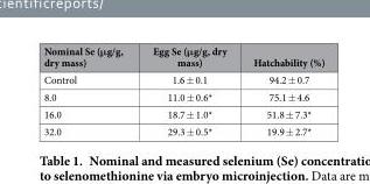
<table><thead><tr><td>Nominal Se (μg/g, dry mass)</td><td>Egg Se (μg/g, dry mass)</td><td>Hatchability (%)</td></tr></thead><tbody><tr><td>Control</td><td>1.6 ± 0.1</td><td>94.2 ± 0.7</td></tr><tr><td>8.0</td><td>11.0 ± 0.6*</td><td>75.1 ± 4.6</td></tr><tr><td>16.0</td><td>18.7 ± 1.0*</td><td>51.8 ± 7.3*</td></tr><tr><td>32.0</td><td>29.3 ± 0.5*</td><td>19.9 ± 2.7*</td></tr></tbody></table>